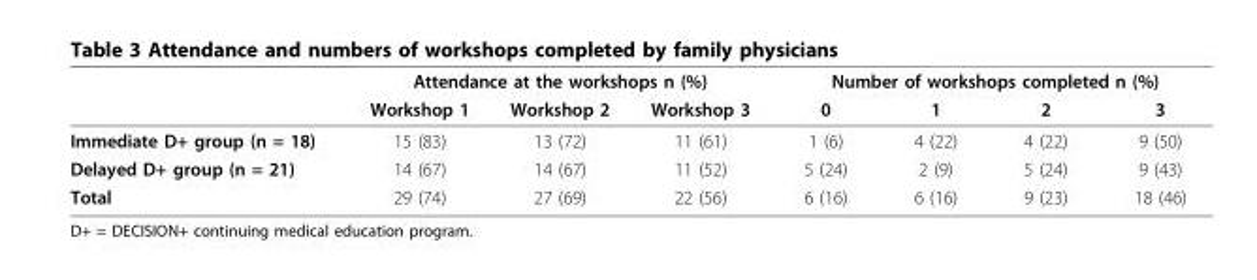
<table><thead><tr><td rowspan="2"></td><td colspan="3">Attendance at the workshops n (%)</td><td colspan="4">Number of workshops completed n (%)</td></tr><tr><td>Workshop 1</td><td>Workshop 2</td><td>Workshop 3</td><td>0</td><td>1</td><td>2</td><td>3</td></tr></thead><tbody><tr><td>Immediate D+ group (n = 18)</td><td>15 (83)</td><td>13 (72)</td><td>11 (61)</td><td>1 (6)</td><td>4 (22)</td><td>4 (22)</td><td>9 (50)</td></tr><tr><td>Delayed D+ group (n = 21)</td><td>14 (67)</td><td>14 (67)</td><td>11 (52)</td><td>5 (24)</td><td>2 (9)</td><td>5 (24)</td><td>9 (43)</td></tr><tr><td>Total</td><td>29 (74)</td><td>27 (69)</td><td>22 (56)</td><td>6 (16)</td><td>6 (16)</td><td>9 (23)</td><td>18 (46)</td></tr></tbody></table>